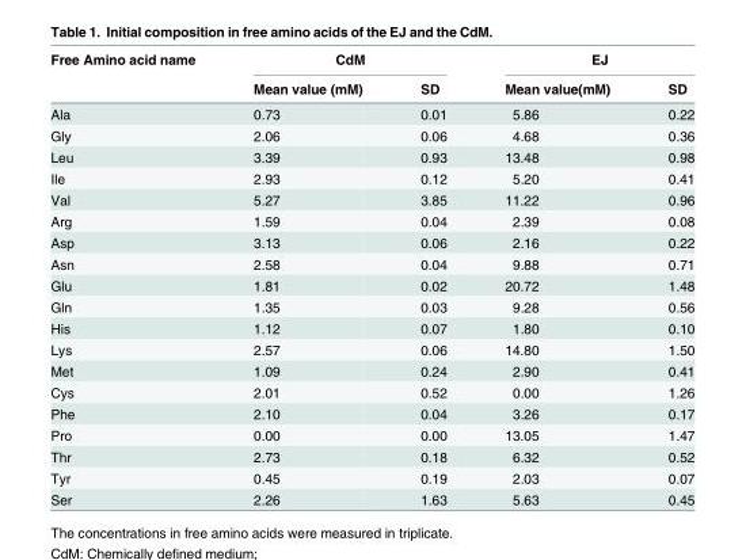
<table><thead><tr><td rowspan="2">Free Amino acid name</td><td colspan="2">CdM</td><td colspan="2">EJ</td></tr><tr><td>Mean value (mM)</td><td>SD</td><td>Mean value(mM)</td><td>SD</td></tr></thead><tbody><tr><td>Ala</td><td>0.73</td><td>0.01</td><td>5.86</td><td>0.22</td></tr><tr><td>Gly</td><td>2.06</td><td>0.06</td><td>4.68</td><td>0.36</td></tr><tr><td>Leu</td><td>3.39</td><td>0.93</td><td>13.48</td><td>0.98</td></tr><tr><td>Ile</td><td>2.93</td><td>0.12</td><td>5.20</td><td>0.41</td></tr><tr><td>Val</td><td>5.27</td><td>3.85</td><td>11.22</td><td>0.96</td></tr><tr><td>Arg</td><td>1.59</td><td>0.04</td><td>2.39</td><td>0.08</td></tr><tr><td>Asp</td><td>3.13</td><td>0.06</td><td>2.16</td><td>0.22</td></tr><tr><td>Asn</td><td>2.58</td><td>0.04</td><td>9.88</td><td>0.71</td></tr><tr><td>Glu</td><td>1.81</td><td>0.02</td><td>20.72</td><td>1.48</td></tr><tr><td>Gln</td><td>1.35</td><td>0.03</td><td>9.28</td><td>0.56</td></tr><tr><td>His</td><td>1.12</td><td>0.07</td><td>1.80</td><td>0.10</td></tr><tr><td>Lys</td><td>2.57</td><td>0.06</td><td>14.80</td><td>1.50</td></tr><tr><td>Met</td><td>1.09</td><td>0.24</td><td>2.90</td><td>0.41</td></tr><tr><td>Cys</td><td>2.01</td><td>0.52</td><td>0.00</td><td>1.26</td></tr><tr><td>Phe</td><td>2.10</td><td>0.04</td><td>3.26</td><td>0.17</td></tr><tr><td>Pro</td><td>0.00</td><td>0.00</td><td>13.05</td><td>1.47</td></tr><tr><td>Thr</td><td>2.73</td><td>0.18</td><td>6.32</td><td>0.52</td></tr><tr><td>Tyr</td><td>0.45</td><td>0.19</td><td>2.03</td><td>0.07</td></tr><tr><td>Ser</td><td>2.26</td><td>1.63</td><td>5.63</td><td>0.45</td></tr></tbody></table>